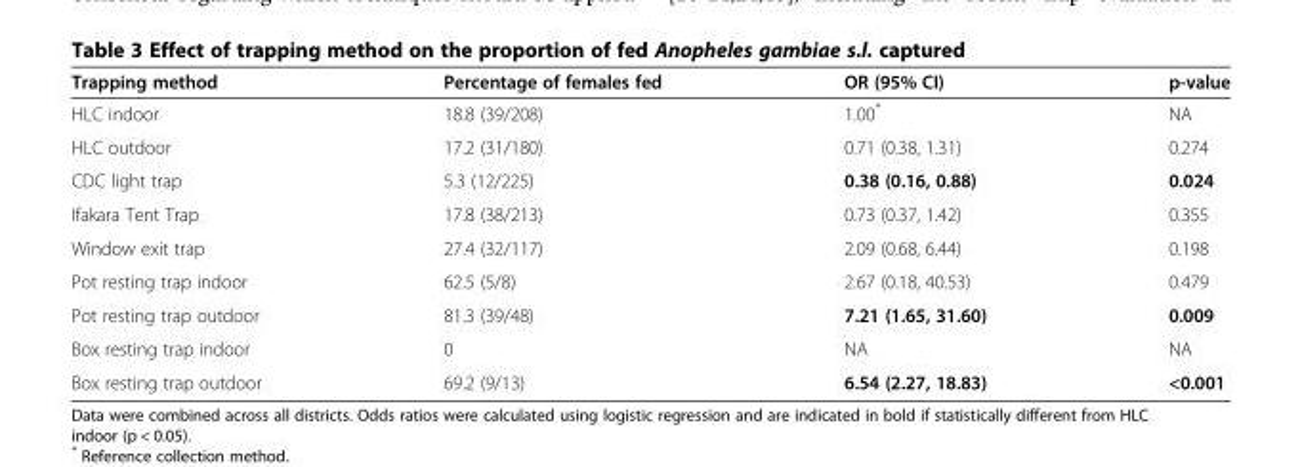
<table><thead><tr><td>Trapping method</td><td>Percentage of females fed</td><td>OR (95% CI)</td><td>p-value</td></tr></thead><tbody><tr><td>HLC indoor</td><td>18.8 (39/208)</td><td>1.00*</td><td>NA</td></tr><tr><td>HLC outdoor</td><td>17.2 (31/180)</td><td>0.71 (0.38, 1.31)</td><td>0.274</td></tr><tr><td>CDC light trap</td><td>5.3 (12/225)</td><td>0.38 (0.16, 0.88)</td><td>0.024</td></tr><tr><td>Ifakara Tent Trap</td><td>17.8 (38/213)</td><td>0.73 (0.37, 1.42)</td><td>0.355</td></tr><tr><td>Window exit trap</td><td>27.4 (32/117)</td><td>2.09 (0.68, 6.44)</td><td>0.198</td></tr><tr><td>Pot resting trap indoor</td><td>62.5 (5/8)</td><td>2.67 (0.18, 40.53)</td><td>0.479</td></tr><tr><td>Pot resting trap outdoor</td><td>81.3 (39/48)</td><td>7.21 (1.65, 31.60)</td><td>0.009</td></tr><tr><td>Box resting trap indoor</td><td>0</td><td>NA</td><td>NA</td></tr><tr><td>Box resting trap outdoor</td><td>69.2 (9/13)</td><td>6.54 (2.27, 18.83)</td><td>&lt;0.001</td></tr></tbody></table>